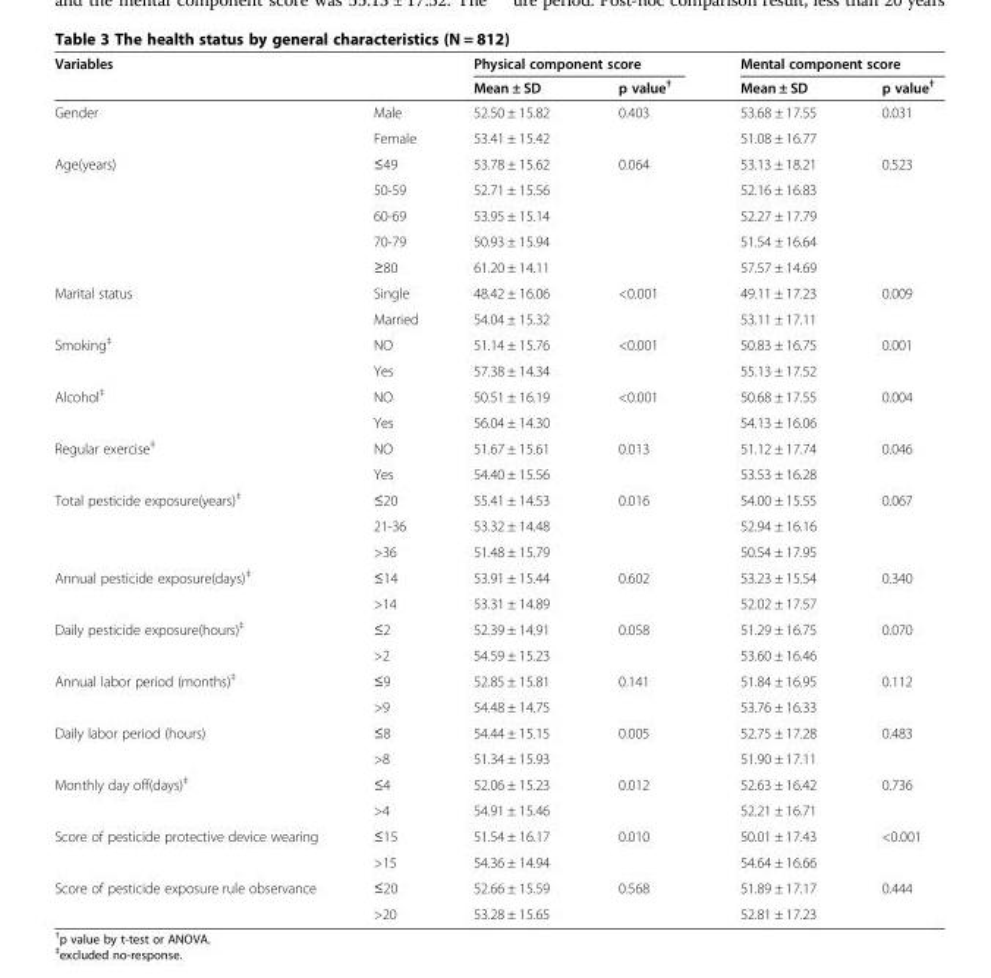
<table><thead><tr><td rowspan="2">Variables</td><td rowspan="2"></td><td colspan="2">Physical component score</td><td colspan="2">Mental component score</td></tr><tr><td>Mean ± SD</td><td>p value<sup>†</sup></td><td>Mean ± SD</td><td>p value<sup>†</sup></td></tr></thead><tbody><tr><td rowspan="2">Gender</td><td>Male</td><td>52.50 ± 15.82</td><td>0.403</td><td>53.68 ± 17.55</td><td>0.031</td></tr><tr><td>Female</td><td>53.41 ± 15.42</td><td></td><td>51.08 ± 16.77</td><td></td></tr><tr><td rowspan="5">Age(years)</td><td>≤49</td><td>53.78 ± 15.62</td><td>0.064</td><td>53.13 ± 18.21</td><td>0.523</td></tr><tr><td>50-59</td><td>52.71 ± 15.56</td><td></td><td>52.16 ± 16.83</td><td></td></tr><tr><td>60-69</td><td>53.95 ± 15.14</td><td></td><td>52.27 ± 17.79</td><td></td></tr><tr><td>70-79</td><td>50.93 ± 15.94</td><td></td><td>51.54 ± 16.64</td><td></td></tr><tr><td>≥80</td><td>61.20 ± 14.11</td><td></td><td>57.57 ± 14.69</td><td></td></tr><tr><td rowspan="2">Marital status</td><td>Single</td><td>48.42 ± 16.06</td><td>&lt;0.001</td><td>49.11 ± 17.23</td><td>0.009</td></tr><tr><td>Married</td><td>54.04 ± 15.32</td><td></td><td>53.11 ± 17.11</td><td></td></tr><tr><td rowspan="2">Smoking<sup>‡</sup></td><td>NO</td><td>51.14 ± 15.76</td><td>&lt;0.001</td><td>50.83 ± 16.75</td><td>0.001</td></tr><tr><td>Yes</td><td>57.38 ± 14.34</td><td></td><td>55.13 ± 17.52</td><td></td></tr><tr><td rowspan="2">Alcohol<sup>‡</sup></td><td>NO</td><td>50.51 ± 16.19</td><td>&lt;0.001</td><td>50.68 ± 17.55</td><td>0.004</td></tr><tr><td>Yes</td><td>56.04 ± 14.30</td><td></td><td>54.13 ± 16.06</td><td></td></tr><tr><td rowspan="2">Regular exercise<sup>‡</sup></td><td>NO</td><td>51.67 ± 15.61</td><td>0.013</td><td>51.12 ± 17.74</td><td>0.046</td></tr><tr><td>Yes</td><td>54.40 ± 15.56</td><td></td><td>53.53 ± 16.28</td><td></td></tr><tr><td rowspan="3">Total pesticide exposure(years)<sup>‡</sup></td><td>≤20</td><td>55.41 ± 14.53</td><td>0.016</td><td>54.00 ± 15.55</td><td>0.067</td></tr><tr><td>21-36</td><td>53.32 ± 14.48</td><td></td><td>52.94 ± 16.16</td><td></td></tr><tr><td>&gt;36</td><td>51.48 ± 15.79</td><td></td><td>50.54 ± 17.95</td><td></td></tr><tr><td rowspan="2">Annual pesticide exposure(days)<sup>‡</sup></td><td>≤14</td><td>53.91 ± 15.44</td><td>0.602</td><td>53.23 ± 15.54</td><td>0.340</td></tr><tr><td>&gt;14</td><td>53.31 ± 14.89</td><td></td><td>52.02 ± 17.57</td><td></td></tr><tr><td rowspan="2">Daily pesticide exposure(hours)<sup>‡</sup></td><td>≤2</td><td>52.39 ± 14.91</td><td>0.058</td><td>51.29 ± 16.75</td><td>0.070</td></tr><tr><td>&gt;2</td><td>54.59 ± 15.23</td><td></td><td>53.60 ± 16.46</td><td></td></tr><tr><td rowspan="2">Annual labor period (months)<sup>‡</sup></td><td>≤9</td><td>52.85 ± 15.81</td><td>0.141</td><td>51.84 ± 16.95</td><td>0.112</td></tr><tr><td>&gt;9</td><td>54.48 ± 14.75</td><td></td><td>53.76 ± 16.33</td><td></td></tr><tr><td rowspan="2">Daily labor period (hours)</td><td>≤8</td><td>54.44 ± 15.15</td><td>0.005</td><td>52.75 ± 17.28</td><td>0.483</td></tr><tr><td>&gt;8</td><td>51.34 ± 15.93</td><td></td><td>51.90 ± 17.11</td><td></td></tr><tr><td rowspan="2">Monthly day off(days)<sup>‡</sup></td><td>≤4</td><td>52.06 ± 15.23</td><td>0.012</td><td>52.63 ± 16.42</td><td>0.736</td></tr><tr><td>&gt;4</td><td>54.91 ± 15.46</td><td></td><td>52.21 ± 16.71</td><td></td></tr><tr><td rowspan="2">Score of pesticide protective device wearing</td><td>≤15</td><td>51.54 ± 16.17</td><td>0.010</td><td>50.01 ± 17.43</td><td>&lt;0.001</td></tr><tr><td>&gt;15</td><td>54.36 ± 14.94</td><td></td><td>54.64 ± 16.66</td><td></td></tr><tr><td rowspan="2">Score of pesticide exposure rule observance</td><td>≤20</td><td>52.66 ± 15.59</td><td>0.568</td><td>51.89 ± 17.17</td><td>0.444</td></tr><tr><td>&gt;20</td><td>53.28 ± 15.65</td><td></td><td>52.81 ± 17.23</td><td></td></tr></tbody></table>